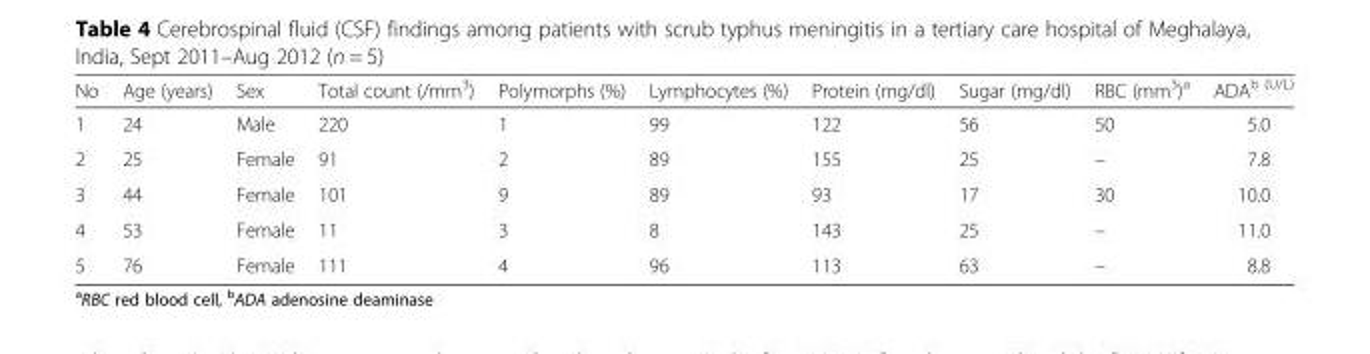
<table><thead><tr><td>No</td><td>Age (years)</td><td>Sex</td><td>Total count (/mm<sup>3</sup>)</td><td>Polymorphs (%)</td><td>Lymphocytes (%)</td><td>Protein (mg/dl)</td><td>Sugar (mg/dl)</td><td>RBC (mm<sup>3</sup>)<sup>a</sup></td><td>ADA<sup>b (U/L)</sup></td></tr></thead><tbody><tr><td>1</td><td>24</td><td>Male</td><td>220</td><td>1</td><td>99</td><td>122</td><td>56</td><td>50</td><td>5.0</td></tr><tr><td>2</td><td>25</td><td>Female</td><td>91</td><td>2</td><td>89</td><td>155</td><td>25</td><td>–</td><td>7.8</td></tr><tr><td>3</td><td>44</td><td>Female</td><td>101</td><td>9</td><td>89</td><td>93</td><td>17</td><td>30</td><td>10.0</td></tr><tr><td>4</td><td>53</td><td>Female</td><td>11</td><td>3</td><td>8</td><td>143</td><td>25</td><td>–</td><td>11.0</td></tr><tr><td>5</td><td>76</td><td>Female</td><td>111</td><td>4</td><td>96</td><td>113</td><td>63</td><td>–</td><td>8.8</td></tr></tbody></table>